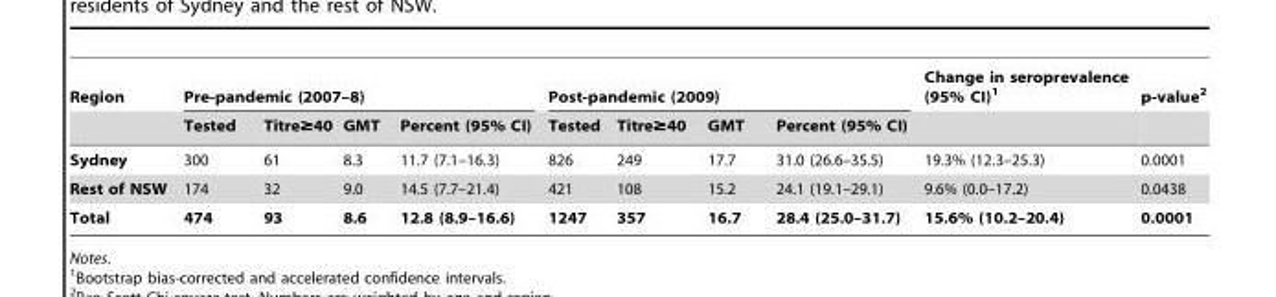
<table><thead><tr><td rowspan="2">Region</td><td colspan="4">Pre-pandemic (2007–8)</td><td colspan="4">Post-pandemic (2009)</td><td rowspan="2">Change in seroprevalence (95% CI)<sup>1</sup></td><td rowspan="2">p-value<sup>2</sup></td></tr><tr><td>Tested</td><td>Titre≥40</td><td>GMT</td><td>Percent (95% CI)</td><td>Tested</td><td>Titre≥40</td><td>GMT</td><td>Percent (95% CI)</td></tr></thead><tbody><tr><td>Sydney</td><td>300</td><td>61</td><td>8.3</td><td>11.7 (7.1–16.3)</td><td>826</td><td>249</td><td>17.7</td><td>31.0 (26.6–35.5)</td><td>19.3% (12.3–25.3)</td><td>0.0001</td></tr><tr><td>Rest of NSW</td><td>174</td><td>32</td><td>9.0</td><td>14.5 (7.7–21.4)</td><td>421</td><td>108</td><td>15.2</td><td>24.1 (19.1–29.1)</td><td>9.6% (0.0–17.2)</td><td>0.0438</td></tr><tr><td>Total</td><td>474</td><td>93</td><td>8.6</td><td>12.8 (8.9–16.6)</td><td>1247</td><td>357</td><td>16.7</td><td>28.4 (25.0–31.7)</td><td>15.6% (10.2–20.4)</td><td>0.0001</td></tr></tbody></table>